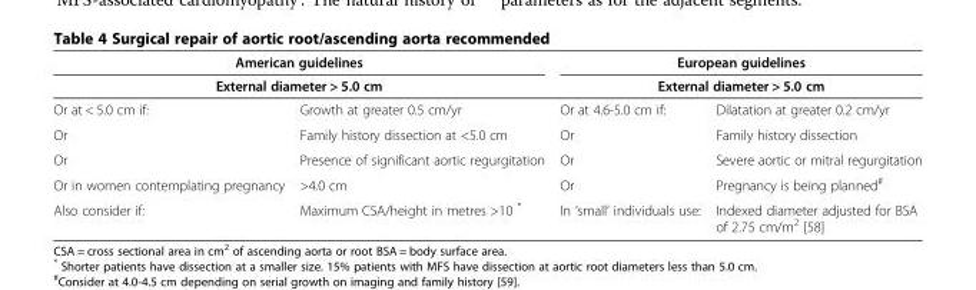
<table><thead><tr><td rowspan="2" colspan="2">American guidelines External diameter &gt; 5.0 cm</td><td rowspan="2" colspan="2">European guidelines External diameter &gt; 5.0 cm</td></tr><tr></tr><tr><td>Or at &lt; 5.0 cm if:</td><td>Growth at greater 0.5 cm/yr</td><td>Or at 4.6-5.0 cm if:</td><td>Dilatation at greater 0.2 cm/yr</td></tr></thead><tbody><tr><td>Or</td><td>Family history dissection at &lt;5.0 cm</td><td>Or</td><td>Family history dissection</td></tr><tr><td>Or</td><td>Presence of significant aortic regurgitation</td><td>Or</td><td>Severe aortic or mitral regurgitation</td></tr><tr><td>Or in women contemplating pregnancy</td><td>&gt;4.0 cm</td><td>Or</td><td>Pregnancy is being planned<sup>#</sup></td></tr><tr><td>Also consider if:</td><td>Maximum CSA/height in metres &gt;10 *</td><td>In ‘small’ individuals use:</td><td>Indexed diameter adjusted for BSA of 2.75 cm/m<sup>2</sup> [58]</td></tr></tbody></table>